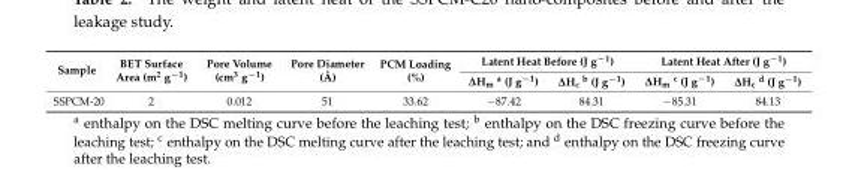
<table><thead><tr><td rowspan="2">Sample</td><td rowspan="2">BET Surface Area (m<sup>2</sup> g<sup>−1</sup>)</td><td rowspan="2">Pore Volume (cm<sup>3</sup> g<sup>−1</sup>)</td><td rowspan="2">Pore Diameter (Å)</td><td rowspan="2">PCM Loading (%)</td><td colspan="2">Latent Heat Before (J g<sup>−1</sup>)</td><td colspan="2">Latent Heat After (J g<sup>−1</sup>)</td></tr><tr><td>∆H<sub>m</sub> <sup>a</sup> (J g<sup>−1</sup>)</td><td>∆H<sub>c</sub> <sup>b</sup> (J g<sup>−1</sup>)</td><td>∆H<sub>m</sub> <sup>c</sup> (J g<sup>−1</sup>)</td><td>∆H<sub>c</sub> <sup>d</sup> (J g<sup>−1</sup>)</td></tr></thead><tbody><tr><td>SSPCM-20</td><td>2</td><td>0.012</td><td>51</td><td>33.62</td><td>−87.42</td><td>84.31</td><td>−85.31</td><td>84.13</td></tr></tbody></table>